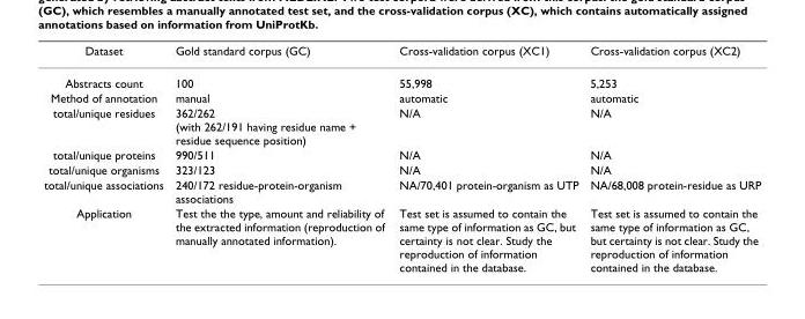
<table><thead><tr><td>Dataset</td><td>Gold standard corpus (GC)</td><td>Cross-validation corpus (XC1)</td><td>Cross-validation corpus (XC2)</td></tr></thead><tbody><tr><td>Abstracts count</td><td>100</td><td>55,998</td><td>5,253</td></tr><tr><td>Method of annotation</td><td>manual</td><td>automatic</td><td>automatic</td></tr><tr><td>total/unique residues</td><td>362/262 (with 262/191 having residue name + residue sequence position)</td><td>N/A</td><td>N/A</td></tr><tr><td>total/unique proteins</td><td>990/511</td><td>N/A</td><td>N/A</td></tr><tr><td>total/unique organisms</td><td>323/123</td><td>N/A</td><td>N/A</td></tr><tr><td>total/unique associations</td><td>240/172 residue-protein-organism associations</td><td>NA/70,401 protein-organism as UTP</td><td>NA/68,008 protein-residue as URP</td></tr><tr><td>Application</td><td>Test the the type, amount and reliability of the extracted information (reproduction of manually annotated information).</td><td>Test set is assumed to contain the same type of information as GC, but certainty is not clear. Study the reproduction of information contained in the database.</td><td>Test set is assumed to contain the same type of information as GC, but certainty is not clear. Study the reproduction of information contained in the database.</td></tr></tbody></table>